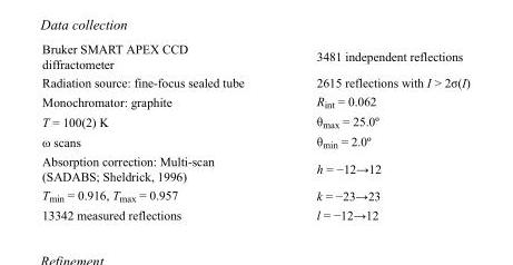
<table><tbody><tr><td>Bruker SMART APEX CCD diffractometer</td><td>3481 independent reflections</td></tr><tr><td>Radiation source: fine-focus sealed tube</td><td>2615 reflections with I &gt; 2σ(I)</td></tr><tr><td>Monochromator: graphite</td><td>R<sub>int</sub> = 0.062</td></tr><tr><td>T = 100(2) K</td><td>θ<sub>max</sub> = 25.0º</td></tr><tr><td>ω scans</td><td>θ<sub>min</sub> = 2.0º</td></tr><tr><td>Absorption correction: Multi-scan (SADABS; Sheldrick, 1996)</td><td>h = −12→12</td></tr><tr><td>T<sub>min</sub> = 0.916, T<sub>max</sub> = 0.957</td><td>k = −23→23</td></tr><tr><td>13342 measured reflections</td><td>l = −12→12</td></tr></tbody></table>